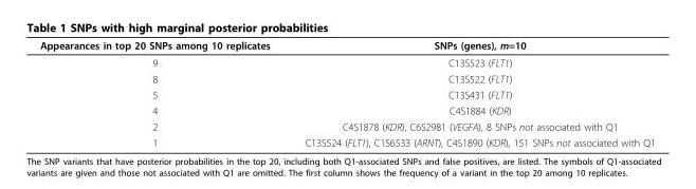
<table><thead><tr><td>Appearances in top 20 SNPs among 10 replicates</td><td>SNPs (genes), m=10</td></tr></thead><tbody><tr><td>9</td><td>C13S523 (FLT1)</td></tr><tr><td>8</td><td>C13S522 (FLT1)</td></tr><tr><td>5</td><td>C13S431 (FLT1)</td></tr><tr><td>4</td><td>C4S1884 (KDR)</td></tr><tr><td>2</td><td>C4S1878 (KDR), C6S2981 (VEGFA), 8 SNPs not associated with Q1</td></tr><tr><td>1</td><td>C13S524 (FLT1), C1S6533 (ARNT), C4S1890 (KDR), 151 SNPs not associated with Q1</td></tr></tbody></table>